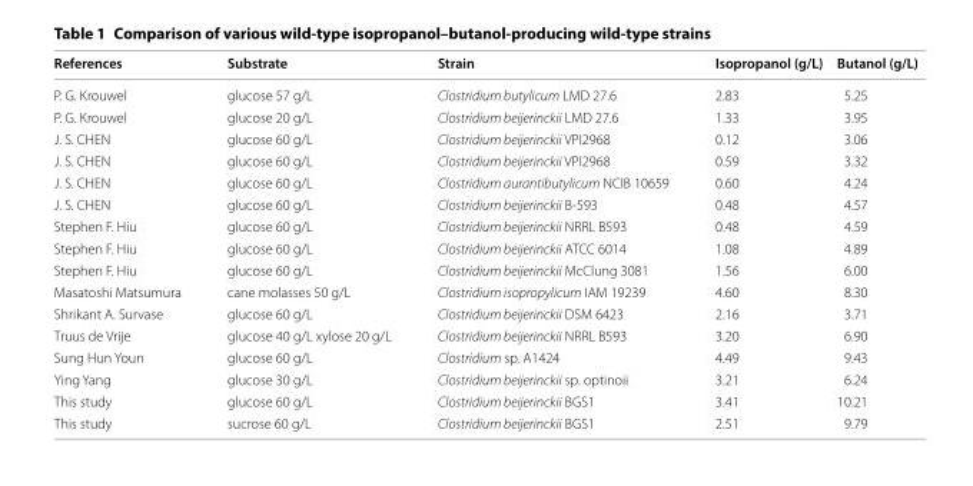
<table><thead><tr><td>References</td><td>Substrate</td><td>Strain</td><td>Isopropanol (g/L)</td><td>Butanol (g/L)</td></tr></thead><tbody><tr><td>P. G. Krouwel</td><td>glucose 57 g/L</td><td>Clostridium butylicum LMD 27.6</td><td>2.83</td><td>5.25</td></tr><tr><td>P. G. Krouwel</td><td>glucose 20 g/L</td><td>Clostridium beijerinckii LMD 27.6</td><td>1.33</td><td>3.95</td></tr><tr><td>J. S. CHEN</td><td>glucose 60 g/L</td><td>Clostridium beijerinckii VPI2968</td><td>0.12</td><td>3.06</td></tr><tr><td>J. S. CHEN</td><td>glucose 60 g/L</td><td>Clostridium beijerinckii VPI2968</td><td>0.59</td><td>3.32</td></tr><tr><td>J. S. CHEN</td><td>glucose 60 g/L</td><td>Clostridium aurantibutylicum NCIB 10659</td><td>0.60</td><td>4.24</td></tr><tr><td>J. S. CHEN</td><td>glucose 60 g/L</td><td>Clostridium beijerinckii B-593</td><td>0.48</td><td>4.57</td></tr><tr><td>Stephen F. Hiu</td><td>glucose 60 g/L</td><td>Clostridium beijerinckii NRRL B593</td><td>0.48</td><td>4.59</td></tr><tr><td>Stephen F. Hiu</td><td>glucose 60 g/L</td><td>Clostridium beijerinckii ATCC 6014</td><td>1.08</td><td>4.89</td></tr><tr><td>Stephen F. Hiu</td><td>glucose 60 g/L</td><td>Clostridium beijerinckii McClung 3081</td><td>1.56</td><td>6.00</td></tr><tr><td>Masatoshi Matsumura</td><td>cane molasses 50 g/L</td><td>Clostridium isopropylicum IAM 19239</td><td>4.60</td><td>8.30</td></tr><tr><td>Shrikant A. Survase</td><td>glucose 60 g/L</td><td>Clostridium beijerinckii DSM 6423</td><td>2.16</td><td>3.71</td></tr><tr><td>Truus de Vrije</td><td>glucose 40 g/L xylose 20 g/L</td><td>Clostridium beijerinckii NRRL B593</td><td>3.20</td><td>6.90</td></tr><tr><td>Sung Hun Youn</td><td>glucose 60 g/L</td><td>Clostridium sp. A1424</td><td>4.49</td><td>9.43</td></tr><tr><td>Ying Yang</td><td>glucose 30 g/L</td><td>Clostridium beijerinckii sp. optinoii</td><td>3.21</td><td>6.24</td></tr><tr><td>This study</td><td>glucose 60 g/L</td><td>Clostridium beijerinckii BGS1</td><td>3.41</td><td>10.21</td></tr><tr><td>This study</td><td>sucrose 60 g/L</td><td>Clostridium beijerinckii BGS1</td><td>2.51</td><td>9.79</td></tr></tbody></table>